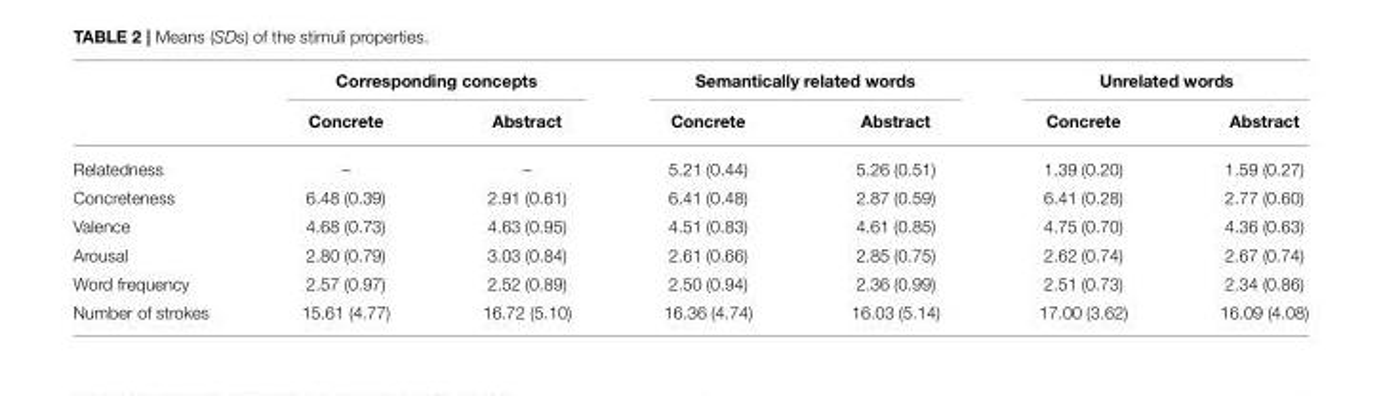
<table><thead><tr><td rowspan="2"></td><td colspan="2">Corresponding concepts</td><td colspan="2">Semantically related words</td><td colspan="2">Unrelated words</td></tr><tr><td>Concrete</td><td>Abstract</td><td>Concrete</td><td>Abstract</td><td>Concrete</td><td>Abstract</td></tr></thead><tbody><tr><td>Relatedness</td><td>–</td><td>–</td><td>5.21 (0.44)</td><td>5.26 (0.51)</td><td>1.39 (0.20)</td><td>1.59 (0.27)</td></tr><tr><td>Concreteness</td><td>6.48 (0.39)</td><td>2.91 (0.61)</td><td>6.41 (0.48)</td><td>2.87 (0.59)</td><td>6.41 (0.28)</td><td>2.77 (0.60)</td></tr><tr><td>Valence</td><td>4.68 (0.73)</td><td>4.63 (0.95)</td><td>4.51 (0.83)</td><td>4.61 (0.85)</td><td>4.75 (0.70)</td><td>4.36 (0.63)</td></tr><tr><td>Arousal</td><td>2.80 (0.79)</td><td>3.03 (0.84)</td><td>2.61 (0.66)</td><td>2.85 (0.75)</td><td>2.62 (0.74)</td><td>2.67 (0.74)</td></tr><tr><td>Word frequency</td><td>2.57 (0.97)</td><td>2.52 (0.89)</td><td>2.50 (0.94)</td><td>2.36 (0.99)</td><td>2.51 (0.73)</td><td>2.34 (0.86)</td></tr><tr><td>Number of strokes</td><td>15.61 (4.77)</td><td>16.72 (5.10)</td><td>16.36 (4.74)</td><td>16.03 (5.14)</td><td>17.00 (3.62)</td><td>16.09 (4.08)</td></tr></tbody></table>